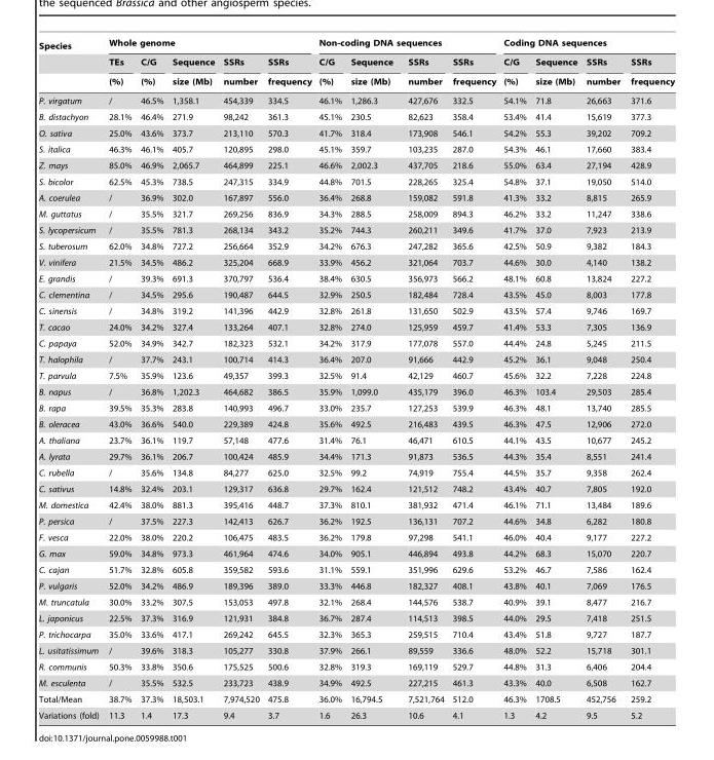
<table><thead><tr><td rowspan="3">Species</td><td colspan="5">Whole genome</td><td colspan="4">Non-coding DNA sequences</td><td colspan="4">Coding DNA sequences</td></tr><tr><td rowspan="2">TEs (%)</td><td rowspan="2">C/G (%)</td><td rowspan="2">Sequence size (Mb)</td><td rowspan="2">SSRs number</td><td rowspan="2">SSRs frequency</td><td rowspan="2">C/G (%)</td><td rowspan="2">Sequence size (Mb)</td><td rowspan="2">SSRs number</td><td rowspan="2">SSRs frequency</td><td rowspan="2">C/G (%)</td><td rowspan="2">Sequence size (Mb)</td><td rowspan="2">SSRs number</td><td rowspan="2">SSRs frequency</td></tr><tr></tr></thead><tbody><tr><td>P. virgatum</td><td>/</td><td>46.5%</td><td>1,358.1</td><td>454,339</td><td>334.5</td><td>46.1%</td><td>1,286.3</td><td>427,676</td><td>332.5</td><td>54.1%</td><td>71.8</td><td>26,663</td><td>371.6</td></tr><tr><td>B. distachyon</td><td>28.1%</td><td>46.4%</td><td>271.9</td><td>98,242</td><td>361.3</td><td>45.1%</td><td>230.5</td><td>82,623</td><td>358.4</td><td>53.4%</td><td>41.4</td><td>15,619</td><td>377.3</td></tr><tr><td>O. sativa</td><td>25.0%</td><td>43.6%</td><td>373.7</td><td>213,110</td><td>570.3</td><td>41.7%</td><td>318.4</td><td>173,908</td><td>546.1</td><td>54.2%</td><td>55.3</td><td>39,202</td><td>709.2</td></tr><tr><td>S. italica</td><td>46.3%</td><td>46.1%</td><td>405.7</td><td>120,895</td><td>298.0</td><td>45.1%</td><td>359.7</td><td>103,235</td><td>287.0</td><td>54.3%</td><td>46.1</td><td>17,660</td><td>383.4</td></tr><tr><td>Z. mays</td><td>85.0%</td><td>46.9%</td><td>2,065.7</td><td>464,899</td><td>225.1</td><td>46.6%</td><td>2,002.3</td><td>437,705</td><td>218.6</td><td>55.0%</td><td>63.4</td><td>27,194</td><td>428.9</td></tr><tr><td>S. bicolor</td><td>62.5%</td><td>45.3%</td><td>738.5</td><td>247,315</td><td>334.9</td><td>44.8%</td><td>701.5</td><td>228,265</td><td>325.4</td><td>54.8%</td><td>37.1</td><td>19,050</td><td>514.0</td></tr><tr><td>A. coerulea</td><td>/</td><td>36.9%</td><td>302.0</td><td>167,897</td><td>556.0</td><td>36.4%</td><td>268.8</td><td>159,082</td><td>591.8</td><td>41.3%</td><td>33.2</td><td>8,815</td><td>265.9</td></tr><tr><td>M. guttatus</td><td>/</td><td>35.5%</td><td>321.7</td><td>269,256</td><td>836.9</td><td>34.3%</td><td>288.5</td><td>258,009</td><td>894.3</td><td>46.2%</td><td>33.2</td><td>11,247</td><td>338.6</td></tr><tr><td>S. lycopersicum</td><td>/</td><td>35.5%</td><td>781.3</td><td>268,134</td><td>343.2</td><td>35.2%</td><td>744.3</td><td>260,211</td><td>349.6</td><td>41.7%</td><td>37.0</td><td>7,923</td><td>213.9</td></tr><tr><td>S. tuberosum</td><td>62.0%</td><td>34.8%</td><td>727.2</td><td>256,664</td><td>352.9</td><td>34.2%</td><td>676.3</td><td>247,282</td><td>365.6</td><td>42.5%</td><td>50.9</td><td>9,382</td><td>184.3</td></tr><tr><td>V. vinifera</td><td>21.5%</td><td>34.5%</td><td>486.2</td><td>325,204</td><td>668.9</td><td>33.9%</td><td>456.2</td><td>321,064</td><td>703.7</td><td>44.6%</td><td>30.0</td><td>4,140</td><td>138.2</td></tr><tr><td>E. grandis</td><td>/</td><td>39.3%</td><td>691.3</td><td>370,797</td><td>536.4</td><td>38.4%</td><td>630.5</td><td>356,973</td><td>566.2</td><td>48.1%</td><td>60.8</td><td>13,824</td><td>227.2</td></tr><tr><td>C. clementina</td><td>/</td><td>34.5%</td><td>295.6</td><td>190,487</td><td>644.5</td><td>32.9%</td><td>250.5</td><td>182,484</td><td>728.4</td><td>43.5%</td><td>45.0</td><td>8,003</td><td>177.8</td></tr><tr><td>C. sinensis</td><td>/</td><td>34.8%</td><td>319.2</td><td>141,396</td><td>442.9</td><td>32.8%</td><td>261.8</td><td>131,650</td><td>502.9</td><td>43.5%</td><td>57.4</td><td>9,746</td><td>169.7</td></tr><tr><td>T. cacao</td><td>24.0%</td><td>34.2%</td><td>327.4</td><td>133,264</td><td>407.1</td><td>32.8%</td><td>274.0</td><td>125,959</td><td>459.7</td><td>41.4%</td><td>53.3</td><td>7,305</td><td>136.9</td></tr><tr><td>C. papaya</td><td>52.0%</td><td>34.9%</td><td>342.7</td><td>182,323</td><td>532.1</td><td>34.2%</td><td>317.9</td><td>177,078</td><td>557.0</td><td>44.4%</td><td>24.8</td><td>5,245</td><td>211.5</td></tr><tr><td>T. halophila</td><td>/</td><td>37.7%</td><td>243.1</td><td>100,714</td><td>414.3</td><td>36.4%</td><td>207.0</td><td>91,666</td><td>442.9</td><td>45.2%</td><td>36.1</td><td>9,048</td><td>250.4</td></tr><tr><td>T. parvula</td><td>7.5%</td><td>35.9%</td><td>123.6</td><td>49,357</td><td>399.3</td><td>32.5%</td><td>91.4</td><td>42,129</td><td>460.7</td><td>45.6%</td><td>32.2</td><td>7,228</td><td>224.8</td></tr><tr><td>B. napus</td><td>/</td><td>36.8%</td><td>1,202.3</td><td>464,682</td><td>386.5</td><td>35.9%</td><td>1,099.0</td><td>435,179</td><td>396.0</td><td>46.3%</td><td>103.4</td><td>29,503</td><td>285.4</td></tr><tr><td>B. rapa</td><td>39.5%</td><td>35.3%</td><td>283.8</td><td>140,993</td><td>496.7</td><td>33.0%</td><td>235.7</td><td>127,253</td><td>539.9</td><td>46.3%</td><td>48.1</td><td>13,740</td><td>285.5</td></tr><tr><td>B. oleracea</td><td>43.0%</td><td>36.6%</td><td>540.0</td><td>229,389</td><td>424.8</td><td>35.6%</td><td>492.5</td><td>216,483</td><td>439.5</td><td>46.3%</td><td>47.5</td><td>12,906</td><td>272.0</td></tr><tr><td>A. thaliana</td><td>23.7%</td><td>36.1%</td><td>119.7</td><td>57,148</td><td>477.6</td><td>31.4%</td><td>76.1</td><td>46,471</td><td>610.5</td><td>44.1%</td><td>43.5</td><td>10,677</td><td>245.2</td></tr><tr><td>A. lyrata</td><td>29.7%</td><td>36.1%</td><td>206.7</td><td>100,424</td><td>485.9</td><td>34.4%</td><td>171.3</td><td>91,873</td><td>536.5</td><td>44.3%</td><td>35.4</td><td>8,551</td><td>241.4</td></tr><tr><td>C. rubella</td><td>/</td><td>35.6%</td><td>134.8</td><td>84,277</td><td>625.0</td><td>32.5%</td><td>99.2</td><td>74,919</td><td>755.4</td><td>44.5%</td><td>35.7</td><td>9,358</td><td>262.4</td></tr><tr><td>C. sativus</td><td>14.8%</td><td>32.4%</td><td>203.1</td><td>129,317</td><td>636.8</td><td>29.7%</td><td>162.4</td><td>121,512</td><td>748.2</td><td>43.4%</td><td>40.7</td><td>7,805</td><td>192.0</td></tr><tr><td>M. domestica</td><td>42.4%</td><td>38.0%</td><td>881.3</td><td>395,416</td><td>448.7</td><td>37.3%</td><td>810.1</td><td>381,932</td><td>471.4</td><td>46.1%</td><td>71.1</td><td>13,484</td><td>189.6</td></tr><tr><td>P. persica</td><td>/</td><td>37.5%</td><td>227.3</td><td>142,413</td><td>626.7</td><td>36.2%</td><td>192.5</td><td>136,131</td><td>707.2</td><td>44.6%</td><td>34.8</td><td>6,282</td><td>180.8</td></tr><tr><td>F. vesca</td><td>22.0%</td><td>38.0%</td><td>220.2</td><td>106,475</td><td>483.5</td><td>36.2%</td><td>179.8</td><td>97,298</td><td>541.1</td><td>46.0%</td><td>40.4</td><td>9,177</td><td>227.2</td></tr><tr><td>G. max</td><td>59.0%</td><td>34.8%</td><td>973.3</td><td>461,964</td><td>474.6</td><td>34.0%</td><td>905.1</td><td>446,894</td><td>493.8</td><td>44.2%</td><td>68.3</td><td>15,070</td><td>220.7</td></tr><tr><td>C. cajan</td><td>51.7%</td><td>32.8%</td><td>605.8</td><td>359,582</td><td>593.6</td><td>31.1%</td><td>559.1</td><td>351,996</td><td>629.6</td><td>53.2%</td><td>46.7</td><td>7,586</td><td>162.4</td></tr><tr><td>P. vulgaris</td><td>52.0%</td><td>34.2%</td><td>486.9</td><td>189,396</td><td>389.0</td><td>33.3%</td><td>446.8</td><td>182,327</td><td>408.1</td><td>43.8%</td><td>40.1</td><td>7,069</td><td>176.5</td></tr><tr><td>M. truncatula</td><td>30.0%</td><td>33.2%</td><td>307.5</td><td>153,053</td><td>497.8</td><td>32.1%</td><td>268.4</td><td>144,576</td><td>538.7</td><td>40.9%</td><td>39.1</td><td>8,477</td><td>216.7</td></tr><tr><td>L. japonicus</td><td>22.5%</td><td>37.3%</td><td>316.9</td><td>121,931</td><td>384.8</td><td>36.7%</td><td>287.4</td><td>114,513</td><td>398.5</td><td>44.0%</td><td>29.5</td><td>7,418</td><td>251.5</td></tr><tr><td>P. trichocarpa</td><td>35.0%</td><td>33.6%</td><td>417.1</td><td>269,242</td><td>645.5</td><td>32.3%</td><td>365.3</td><td>259,515</td><td>710.4</td><td>43.4%</td><td>51.8</td><td>9,727</td><td>187.7</td></tr><tr><td>L. usitatissimum</td><td>/</td><td>39.6%</td><td>318.3</td><td>105,277</td><td>330.8</td><td>37.9%</td><td>266.1</td><td>89,559</td><td>336.6</td><td>48.0%</td><td>52.2</td><td>15,718</td><td>301.1</td></tr><tr><td>R. communis</td><td>50.3%</td><td>33.8%</td><td>350.6</td><td>175,525</td><td>500.6</td><td>32.8%</td><td>319.3</td><td>169,119</td><td>529.7</td><td>44.8%</td><td>31.3</td><td>6,406</td><td>204.4</td></tr><tr><td>M. esculenta</td><td>/</td><td>35.5%</td><td>532.5</td><td>233,723</td><td>438.9</td><td>34.9%</td><td>492.5</td><td>227,215</td><td>461.3</td><td>43.3%</td><td>40.0</td><td>6,508</td><td>162.7</td></tr><tr><td>Total/Mean</td><td>38.7%</td><td>37.3%</td><td>18,503.1</td><td>7,974,520</td><td>475.8</td><td>36.0%</td><td>16,794.5</td><td>7,521,764</td><td>512.0</td><td>46.3%</td><td>1708.5</td><td>452,756</td><td>259.2</td></tr><tr><td>Variations (fold)</td><td>11.3</td><td>1.4</td><td>17.3</td><td>9.4</td><td>3.7</td><td>1.6</td><td>26.3</td><td>10.6</td><td>4.1</td><td>1.3</td><td>4.2</td><td>9.5</td><td>5.2</td></tr></tbody></table>